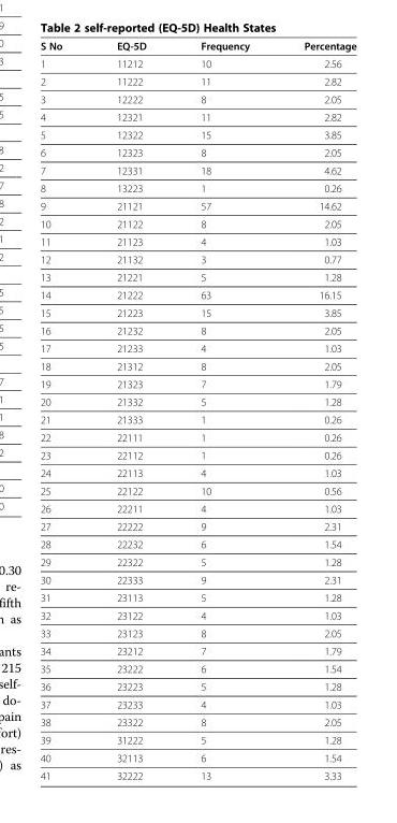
<table><thead><tr><td>S No</td><td>EQ-5D</td><td>Frequency</td><td>Percentage</td></tr></thead><tbody><tr><td>1</td><td>11212</td><td>10</td><td>2.56</td></tr><tr><td>2</td><td>11222</td><td>11</td><td>2.82</td></tr><tr><td>3</td><td>12222</td><td>8</td><td>2.05</td></tr><tr><td>4</td><td>12321</td><td>11</td><td>2.82</td></tr><tr><td>5</td><td>12322</td><td>15</td><td>3.85</td></tr><tr><td>6</td><td>12323</td><td>8</td><td>2.05</td></tr><tr><td>7</td><td>12331</td><td>18</td><td>4.62</td></tr><tr><td>8</td><td>13223</td><td>1</td><td>0.26</td></tr><tr><td>9</td><td>21121</td><td>57</td><td>14.62</td></tr><tr><td>10</td><td>21122</td><td>8</td><td>2.05</td></tr><tr><td>11</td><td>21123</td><td>4</td><td>1.03</td></tr><tr><td>12</td><td>21132</td><td>3</td><td>0.77</td></tr><tr><td>13</td><td>21221</td><td>5</td><td>1.28</td></tr><tr><td>14</td><td>21222</td><td>63</td><td>16.15</td></tr><tr><td>15</td><td>21223</td><td>15</td><td>3.85</td></tr><tr><td>16</td><td>21232</td><td>8</td><td>2.05</td></tr><tr><td>17</td><td>21233</td><td>4</td><td>1.03</td></tr><tr><td>18</td><td>21312</td><td>8</td><td>2.05</td></tr><tr><td>19</td><td>21323</td><td>7</td><td>1.79</td></tr><tr><td>20</td><td>21332</td><td>5</td><td>1.28</td></tr><tr><td>21</td><td>21333</td><td>1</td><td>0.26</td></tr><tr><td>22</td><td>22111</td><td>1</td><td>0.26</td></tr><tr><td>23</td><td>22112</td><td>1</td><td>0.26</td></tr><tr><td>24</td><td>22113</td><td>4</td><td>1.03</td></tr><tr><td>25</td><td>22122</td><td>10</td><td>0.56</td></tr><tr><td>26</td><td>22211</td><td>4</td><td>1.03</td></tr><tr><td>27</td><td>22222</td><td>9</td><td>2.31</td></tr><tr><td>28</td><td>22232</td><td>6</td><td>1.54</td></tr><tr><td>29</td><td>22322</td><td>5</td><td>1.28</td></tr><tr><td>30</td><td>22333</td><td>9</td><td>2.31</td></tr><tr><td>31</td><td>23113</td><td>5</td><td>1.28</td></tr><tr><td>32</td><td>23122</td><td>4</td><td>1.03</td></tr><tr><td>33</td><td>23123</td><td>8</td><td>2.05</td></tr><tr><td>34</td><td>23212</td><td>7</td><td>1.79</td></tr><tr><td>35</td><td>23222</td><td>6</td><td>1.54</td></tr><tr><td>36</td><td>23223</td><td>5</td><td>1.28</td></tr><tr><td>37</td><td>23233</td><td>4</td><td>1.03</td></tr><tr><td>38</td><td>23322</td><td>8</td><td>2.05</td></tr><tr><td>39</td><td>31222</td><td>5</td><td>1.28</td></tr><tr><td>40</td><td>32113</td><td>6</td><td>1.54</td></tr><tr><td>41</td><td>32222</td><td>13</td><td>3.33</td></tr></tbody></table>